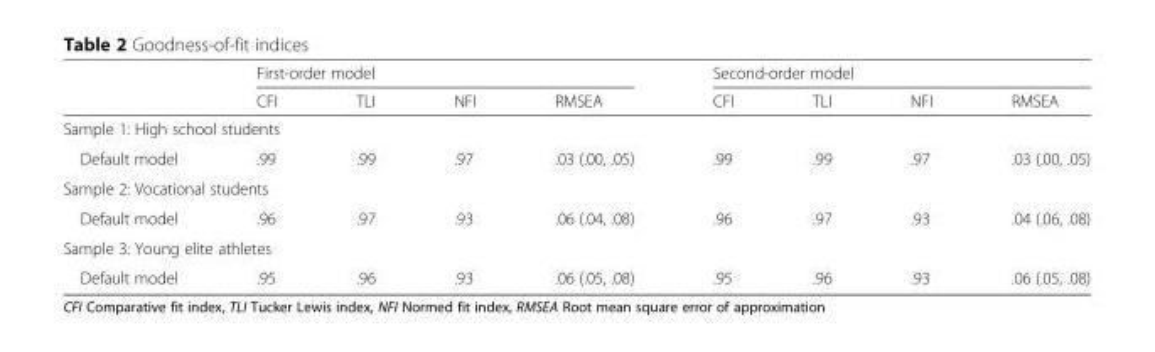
<table><thead><tr><td rowspan="2"></td><td colspan="4">First-order model</td><td colspan="4">Second-order model</td></tr><tr><td>CFI</td><td>TLI</td><td>NFI</td><td>RMSEA</td><td>CFI</td><td>TLI</td><td>NFI</td><td>RMSEA</td></tr></thead><tbody><tr><td colspan="9">Sample 1: High school students</td></tr><tr><td>Default model</td><td>.99</td><td>.99</td><td>.97</td><td>.03 (.00, .05)</td><td>.99</td><td>.99</td><td>.97</td><td>.03 (.00, .05)</td></tr><tr><td colspan="9">Sample 2: Vocational students</td></tr><tr><td>Default model</td><td>.96</td><td>.97</td><td>.93</td><td>.06 (.04, .08)</td><td>.96</td><td>.97</td><td>.93</td><td>.04 (.06, .08)</td></tr><tr><td colspan="9">Sample 3: Young elite athletes</td></tr><tr><td>Default model</td><td>.95</td><td>.96</td><td>.93</td><td>.06 (.05, .08)</td><td>.95</td><td>.96</td><td>.93</td><td>.06 (.05, .08)</td></tr></tbody></table>